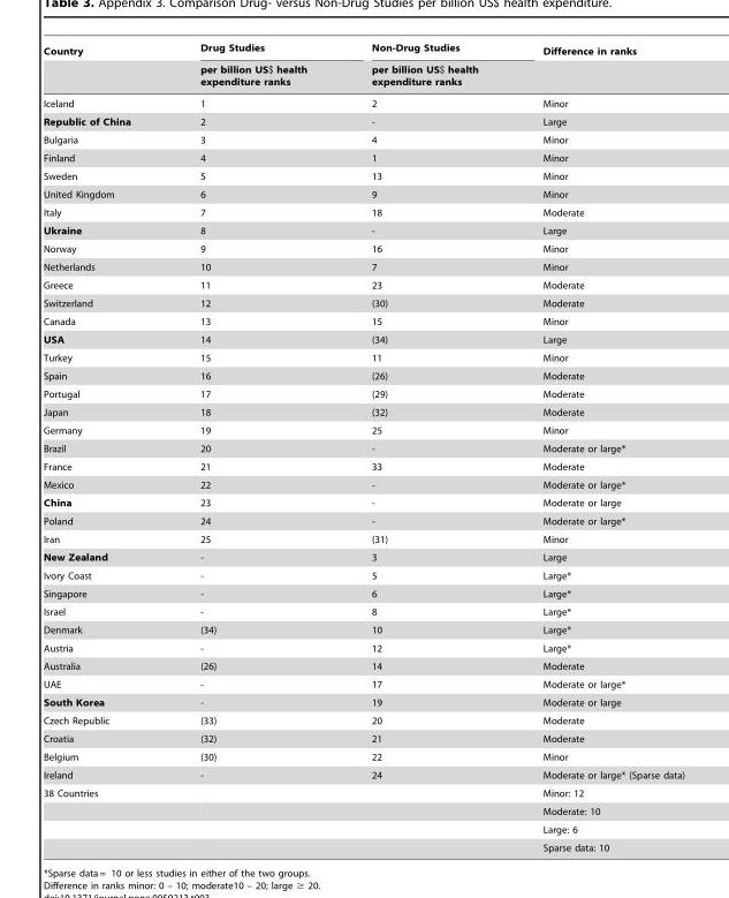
<table><thead><tr><td rowspan="2">Country</td><td rowspan="2">Drug Studies per billion US$ health expenditure ranks</td><td rowspan="2">Non-Drug Studies per billion US$ health expenditure ranks</td><td rowspan="2">Difference in ranks</td></tr><tr></tr></thead><tbody><tr><td>Iceland</td><td>1</td><td>2</td><td>Minor</td></tr><tr><td>Republic of China</td><td>2</td><td>-</td><td>Large</td></tr><tr><td>Bulgaria</td><td>3</td><td>4</td><td>Minor</td></tr><tr><td>Finland</td><td>4</td><td>1</td><td>Minor</td></tr><tr><td>Sweden</td><td>5</td><td>13</td><td>Minor</td></tr><tr><td>United Kingdom</td><td>6</td><td>9</td><td>Minor</td></tr><tr><td>Italy</td><td>7</td><td>18</td><td>Moderate</td></tr><tr><td>Ukraine</td><td>8</td><td>-</td><td>Large</td></tr><tr><td>Norway</td><td>9</td><td>16</td><td>Minor</td></tr><tr><td>Netherlands</td><td>10</td><td>7</td><td>Minor</td></tr><tr><td>Greece</td><td>11</td><td>23</td><td>Moderate</td></tr><tr><td>Switzerland</td><td>12</td><td>(30)</td><td>Moderate</td></tr><tr><td>Canada</td><td>13</td><td>15</td><td>Minor</td></tr><tr><td>USA</td><td>14</td><td>(34)</td><td>Large</td></tr><tr><td>Turkey</td><td>15</td><td>11</td><td>Minor</td></tr><tr><td>Spain</td><td>16</td><td>(26)</td><td>Moderate</td></tr><tr><td>Portugal</td><td>17</td><td>(29)</td><td>Moderate</td></tr><tr><td>Japan</td><td>18</td><td>(32)</td><td>Moderate</td></tr><tr><td>Germany</td><td>19</td><td>25</td><td>Minor</td></tr><tr><td>Brazil</td><td>20</td><td>-</td><td>Moderate or large*</td></tr><tr><td>France</td><td>21</td><td>33</td><td>Moderate</td></tr><tr><td>Mexico</td><td>22</td><td>-</td><td>Moderate or large*</td></tr><tr><td>China</td><td>23</td><td>-</td><td>Moderate or large</td></tr><tr><td>Poland</td><td>24</td><td>-</td><td>Moderate or large*</td></tr><tr><td>Iran</td><td>25</td><td>(31)</td><td>Minor</td></tr><tr><td>New Zealand</td><td>-</td><td>3</td><td>Large</td></tr><tr><td>Ivory Coast</td><td>-</td><td>5</td><td>Large*</td></tr><tr><td>Singapore</td><td>-</td><td>6</td><td>Large*</td></tr><tr><td>Israel</td><td>-</td><td>8</td><td>Large*</td></tr><tr><td>Denmark</td><td>(34)</td><td>10</td><td>Large*</td></tr><tr><td>Austria</td><td>-</td><td>12</td><td>Large*</td></tr><tr><td>Australia</td><td>(26)</td><td>14</td><td>Moderate</td></tr><tr><td>UAE</td><td>-</td><td>17</td><td>Moderate or large*</td></tr><tr><td>South Korea</td><td>-</td><td>19</td><td>Moderate or large</td></tr><tr><td>Czech Republic</td><td>(33)</td><td>20</td><td>Moderate</td></tr><tr><td>Croatia</td><td>(32)</td><td>21</td><td>Moderate</td></tr><tr><td>Belgium</td><td>(30)</td><td>22</td><td>Minor</td></tr><tr><td>Ireland</td><td>-</td><td>24</td><td>Moderate or large* (Sparse data)</td></tr><tr><td rowspan="4">38 Countries</td><td></td><td></td><td>Minor: 12</td></tr><tr><td></td><td></td><td>Moderate: 10</td></tr><tr><td></td><td></td><td>Large: 6</td></tr><tr><td></td><td></td><td>Sparse data: 10</td></tr></tbody></table>